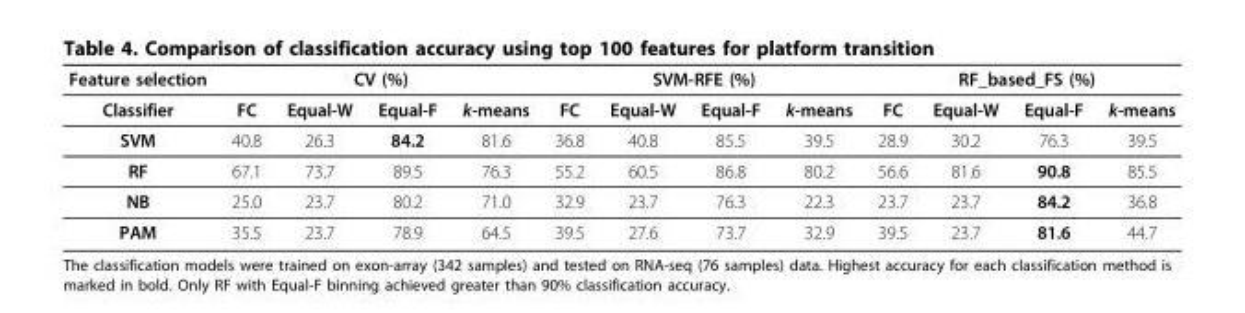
<table><thead><tr><td rowspan="2">Feature selection Classifier</td><td colspan="4">CV (%)</td><td colspan="4">SVM-RFE (%)</td><td colspan="4">RF_based_FS (%)</td></tr><tr><td>FC</td><td>Equal-W</td><td>Equal-F</td><td>k-means</td><td>FC</td><td>Equal-W</td><td>Equal-F</td><td>k-means</td><td>FC</td><td>Equal-W</td><td>Equal-F</td><td>k-means</td></tr></thead><tbody><tr><td>SVM</td><td>40.8</td><td>26.3</td><td>84.2</td><td>81.6</td><td>36.8</td><td>40.8</td><td>85.5</td><td>39.5</td><td>28.9</td><td>30.2</td><td>76.3</td><td>39.5</td></tr><tr><td>RF</td><td>67.1</td><td>73.7</td><td>89.5</td><td>76.3</td><td>55.2</td><td>60.5</td><td>86.8</td><td>80.2</td><td>56.6</td><td>81.6</td><td>90.8</td><td>85.5</td></tr><tr><td>NB</td><td>25.0</td><td>23.7</td><td>80.2</td><td>71.0</td><td>32.9</td><td>23.7</td><td>76.3</td><td>22.3</td><td>23.7</td><td>23.7</td><td>84.2</td><td>36.8</td></tr><tr><td>PAM</td><td>35.5</td><td>23.7</td><td>78.9</td><td>64.5</td><td>39.5</td><td>27.6</td><td>73.7</td><td>32.9</td><td>39.5</td><td>23.7</td><td>81.6</td><td>44.7</td></tr></tbody></table>